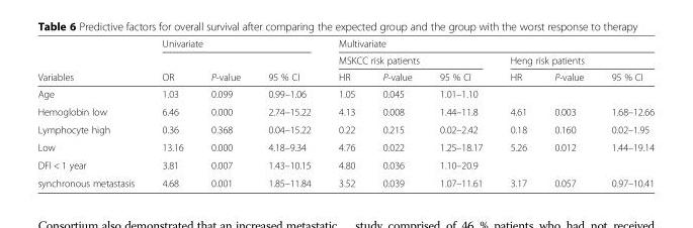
<table><thead><tr><td rowspan="3">Variables</td><td colspan="3">Univariate</td><td colspan="6">Multivariate</td></tr><tr><td rowspan="2">OR</td><td rowspan="2">P-value</td><td rowspan="2">95 % CI</td><td colspan="3">MSKCC risk patients</td><td colspan="3">Heng risk patients</td></tr><tr><td>HR</td><td>P-value</td><td>95 % CI</td><td>HR</td><td>P-value</td><td>95 % CI</td></tr></thead><tbody><tr><td>Age</td><td>1.03</td><td>0.099</td><td>0.99–1.06</td><td>1.05</td><td>0.045</td><td>1.01–1.10</td><td></td><td></td><td></td></tr><tr><td>Hemoglobin low</td><td>6.46</td><td>0.000</td><td>2.74–15.22</td><td>4.13</td><td>0.008</td><td>1.44–11.8</td><td>4.61</td><td>0.003</td><td>1.68–12.66</td></tr><tr><td>Lymphocyte high</td><td>0.36</td><td>0.368</td><td>0.04–15.22</td><td>0.22</td><td>0.215</td><td>0.02–2.42</td><td>0.18</td><td>0.160</td><td>0.02–1.95</td></tr><tr><td>Low</td><td>13.16</td><td>0.000</td><td>4.18–9.34</td><td>4.76</td><td>0.022</td><td>1.25–18.17</td><td>5.26</td><td>0.012</td><td>1.44–19.14</td></tr><tr><td>DFI &lt; 1 year</td><td>3.81</td><td>0.007</td><td>1.43–10.15</td><td>4.80</td><td>0.036</td><td>1.10–20.9</td><td></td><td></td><td></td></tr><tr><td>synchronous metastasis</td><td>4.68</td><td>0.001</td><td>1.85–11.84</td><td>3.52</td><td>0.039</td><td>1.07–11.61</td><td>3.17</td><td>0.057</td><td>0.97–10.41</td></tr></tbody></table>